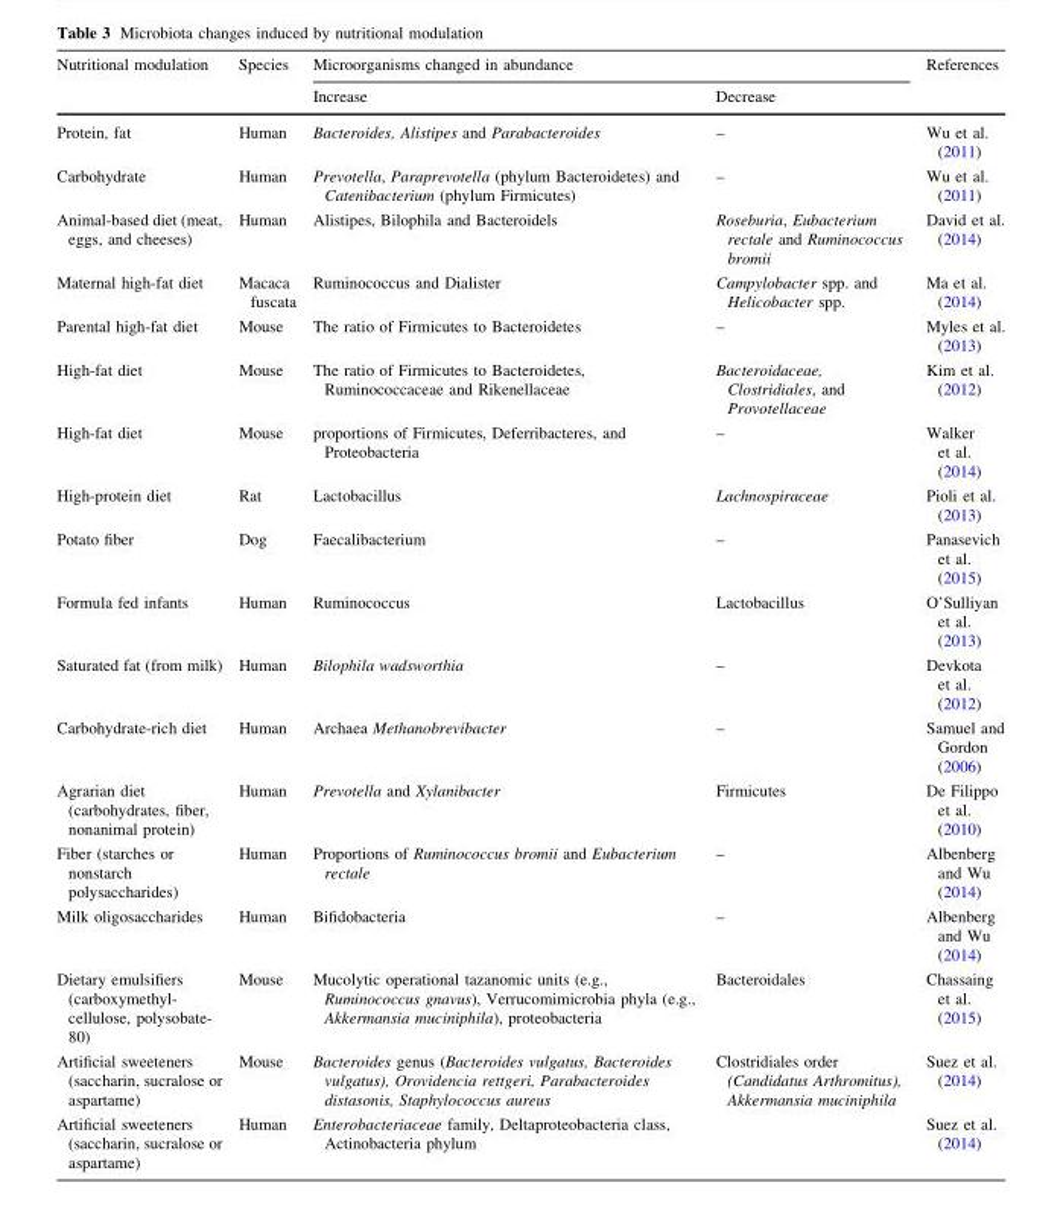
<table><thead><tr><td rowspan="2">Nutritional modulation</td><td rowspan="2">Species</td><td colspan="2">Microorganisms changed in abundance</td><td rowspan="2">References</td></tr><tr><td>Increase</td><td>Decrease</td></tr></thead><tbody><tr><td>Protein, fat</td><td>Human</td><td>Bacteroides, Alistipes and Parabacteroides</td><td>–</td><td>Wu et al. (2011)</td></tr><tr><td>Carbohydrate</td><td>Human</td><td>Prevotella, Paraprevotella (phylum Bacteroidetes) and Catenibacterium (phylum Firmicutes)</td><td>–</td><td>Wu et al. (2011)</td></tr><tr><td>Animal-based diet (meat, eggs, and cheeses)</td><td>Human</td><td>Alistipes, Bilophila and Bacteroidels</td><td>Roseburia, Eubacterium rectale and Ruminococcus bromii</td><td>David et al. (2014)</td></tr><tr><td>Maternal high-fat diet</td><td>Macaca fuscata</td><td>Ruminococcus and Dialister</td><td>Campylobacter spp. and Helicobacter spp.</td><td>Ma et al. (2014)</td></tr><tr><td>Parental high-fat diet</td><td>Mouse</td><td>The ratio of Firmicutes to Bacteroidetes</td><td>–</td><td>Myles et al. (2013)</td></tr><tr><td>High-fat diet</td><td>Mouse</td><td>The ratio of Firmicutes to Bacteroidetes, Ruminococcaceae and Rikenellaceae</td><td>Bacteroidaceae, Clostridiales, and Provotellaceae</td><td>Kim et al. (2012)</td></tr><tr><td>High-fat diet</td><td>Mouse</td><td>proportions of Firmicutes, Deferribacteres, and Proteobacteria</td><td>–</td><td>Walker et al. (2014)</td></tr><tr><td>High-protein diet</td><td>Rat</td><td>Lactobacillus</td><td>Lachnospiraceae</td><td>Pioli et al. (2013)</td></tr><tr><td>Potato fiber</td><td>Dog</td><td>Faecalibacterium</td><td>–</td><td>Panasevich et al. (2015)</td></tr><tr><td>Formula fed infants</td><td>Human</td><td>Ruminococcus</td><td>Lactobacillus</td><td>O’Sulliyan et al. (2013)</td></tr><tr><td>Saturated fat (from milk)</td><td>Human</td><td>Bilophila wadsworthia</td><td>–</td><td>Devkota et al. (2012)</td></tr><tr><td>Carbohydrate-rich diet</td><td>Human</td><td>Archaea Methanobrevibacter</td><td>–</td><td>Samuel and Gordon (2006)</td></tr><tr><td>Agrarian diet (carbohydrates, fiber, nonanimal protein)</td><td>Human</td><td>Prevotella and Xylanibacter</td><td>Firmicutes</td><td>De Filippo et al. (2010)</td></tr><tr><td>Fiber (starches or nonstarch polysaccharides)</td><td>Human</td><td>Proportions of Ruminococcus bromii and Eubacterium rectale</td><td>–</td><td>Albenberg and Wu (2014)</td></tr><tr><td>Milk oligosaccharides</td><td>Human</td><td>Bifidobacteria</td><td>–</td><td>Albenberg and Wu (2014)</td></tr><tr><td>Dietary emulsifiers (carboxymethyl- cellulose, polysobate- 80)</td><td>Mouse</td><td>Mucolytic operational tazanomic units (e.g., Ruminococcus gnavus), Verrucomimicrobia phyla (e.g., Akkermansia muciniphila), proteobacteria</td><td>Bacteroidales</td><td>Chassaing et al. (2015)</td></tr><tr><td>Artificial sweeteners (saccharin, sucralose or aspartame)</td><td>Mouse</td><td>Bacteroides genus (Bacteroides vulgatus, Bacteroides vulgatus), Orovidencia rettgeri, Parabacteroides distasonis, Staphylococcus aureus</td><td>Clostridiales order (Candidatus Arthromitus), Akkermansia muciniphila</td><td>Suez et al. (2014)</td></tr><tr><td>Artificial sweeteners (saccharin, sucralose or aspartame)</td><td>Human</td><td>Enterobacteriaceae family, Deltaproteobacteria class, Actinobacteria phylum</td><td></td><td>Suez et al. (2014)</td></tr></tbody></table>